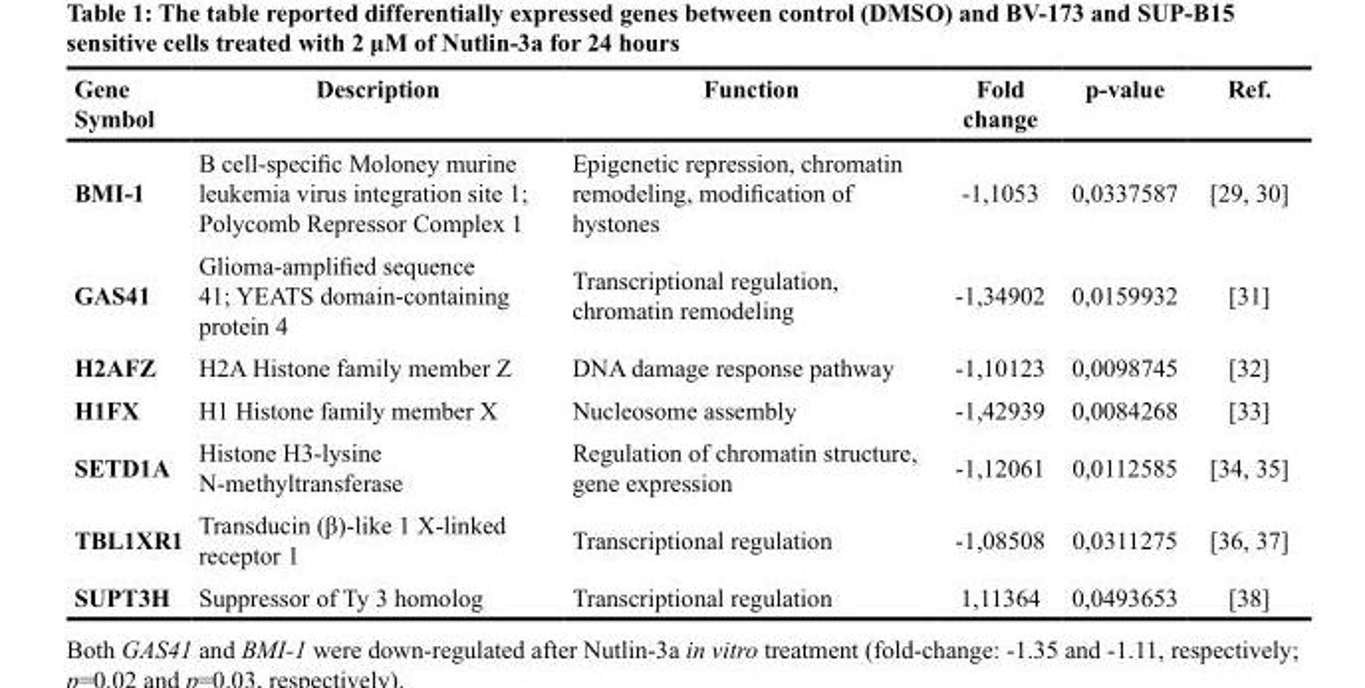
<table><thead><tr><td>Gene Symbol</td><td>Description</td><td>Function</td><td>Fold change</td><td>p-value</td><td>Ref.</td></tr></thead><tbody><tr><td>BMI-1</td><td>B cell-specific Moloney murine leukemia virus integration site 1; Polycomb Repressor Complex 1</td><td>Epigenetic repression, chromatin remodeling, modification of hystones</td><td>-1,1053</td><td>0,0337587</td><td>[29, 30]</td></tr><tr><td>GAS41</td><td>Glioma-amplified sequence 41; YEATS domain-containing protein 4</td><td>Transcriptional regulation, chromatin remodeling</td><td>-1,34902</td><td>0,0159932</td><td>[31]</td></tr><tr><td>H2AFZ</td><td>H2A Histone family member Z</td><td>DNA damage response pathway</td><td>-1,10123</td><td>0,0098745</td><td>[32]</td></tr><tr><td>H1FX</td><td>H1 Histone family member X</td><td>Nucleosome assembly</td><td>-1,42939</td><td>0,0084268</td><td>[33]</td></tr><tr><td>SETD1A</td><td>Histone H3-lysine N-methyltransferase</td><td>Regulation of chromatin structure, gene expression</td><td>-1,12061</td><td>0,0112585</td><td>[34, 35]</td></tr><tr><td>TBL1XR1</td><td>Transducin (β)-like 1 X-linked receptor 1</td><td>Transcriptional regulation</td><td>-1,08508</td><td>0,0311275</td><td>[36, 37]</td></tr><tr><td>SUPT3H</td><td>Suppressor of Ty 3 homolog</td><td>Transcriptional regulation</td><td>1,11364</td><td>0,0493653</td><td>[38]</td></tr></tbody></table>